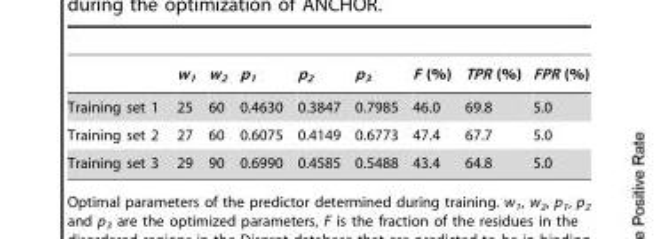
<table><thead><tr><td></td><td>w<sub>1</sub></td><td>w<sub>2</sub></td><td>p<sub>1</sub></td><td>p<sub>2</sub></td><td>p<sub>3</sub></td><td>F (%)</td><td>TPR (%)</td><td>FPR (%)</td></tr></thead><tbody><tr><td>Training set 1</td><td>25</td><td>60</td><td>0.4630</td><td>0.3847</td><td>0.7985</td><td>46.0</td><td>69.8</td><td>5.0</td></tr><tr><td>Training set 2</td><td>27</td><td>60</td><td>0.6075</td><td>0.4149</td><td>0.6773</td><td>47.4</td><td>67.7</td><td>5.0</td></tr><tr><td>Training set 3</td><td>29</td><td>90</td><td>0.6990</td><td>0.4585</td><td>0.5488</td><td>43.4</td><td>64.8</td><td>5.0</td></tr></tbody></table>